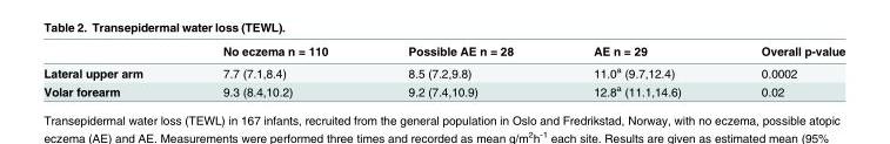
<table><thead><tr><td></td><td>No eczema n = 110</td><td>Possible AE n = 28</td><td>AE n = 29</td><td>Overall p-value</td></tr></thead><tbody><tr><td>Lateral upper arm</td><td>7.7 (7.1,8.4)</td><td>8.5 (7.2,9.8)</td><td>11.0<sup>a</sup> (9.7,12.4)</td><td>0.0002</td></tr><tr><td>Volar forearm</td><td>9.3 (8.4,10.2)</td><td>9.2 (7.4,10.9)</td><td>12.8<sup>a</sup> (11.1,14.6)</td><td>0.02</td></tr></tbody></table>